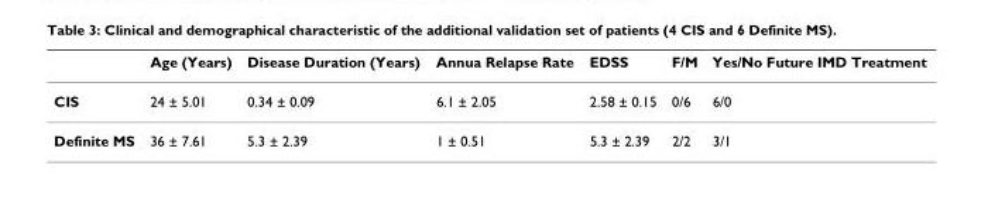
<table><thead><tr><td></td><td>Age (Years)</td><td>Disease Duration (Years)</td><td>Annua Relapse Rate</td><td>EDSS</td><td>F/M</td><td>Yes/No Future IMD Treatment</td></tr></thead><tbody><tr><td>CIS</td><td>24 ± 5.01</td><td>0.34 ± 0.09</td><td>6.1 ± 2.05</td><td>2.58 ± 0.15</td><td>0/6</td><td>6/0</td></tr><tr><td>Definite MS</td><td>36 ± 7.61</td><td>5.3 ± 2.39</td><td>1 ± 0.51</td><td>5.3 ± 2.39</td><td>2/2</td><td>3/1</td></tr></tbody></table>